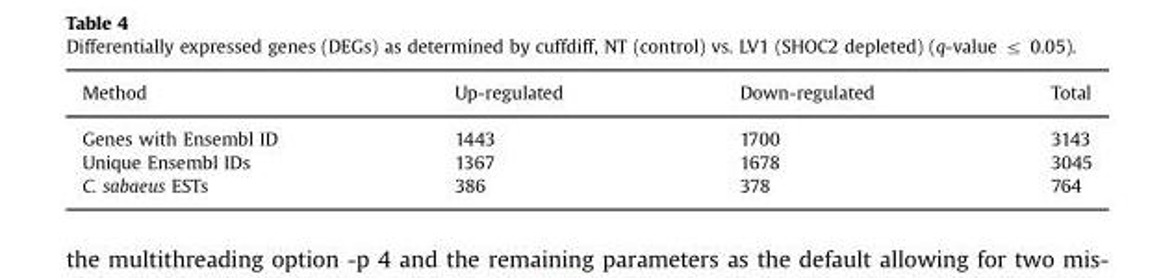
<table><thead><tr><td>Method</td><td>Up-regulated</td><td>Down-regulated</td><td>Total</td></tr></thead><tbody><tr><td>Genes with Ensembl ID</td><td>1443</td><td>1700</td><td>3143</td></tr><tr><td>Unique Ensembl IDs</td><td>1367</td><td>1678</td><td>3045</td></tr><tr><td>C. sabaeus ESTs</td><td>386</td><td>378</td><td>764</td></tr></tbody></table>